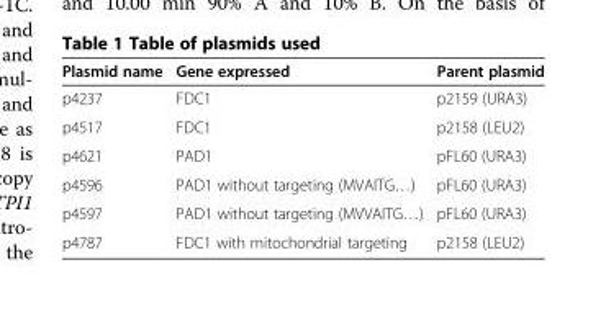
<table><thead><tr><td>Plasmid name</td><td>Gene expressed</td><td>Parent plasmid</td></tr></thead><tbody><tr><td>p4237</td><td>FDC1</td><td>p2159 (URA3)</td></tr><tr><td>p4517</td><td>FDC1</td><td>p2158 (LEU2)</td></tr><tr><td>p4621</td><td>PAD1</td><td>pFL60 (URA3)</td></tr><tr><td>p4596</td><td>PAD1 without targeting (MVAITG…)</td><td>pFL60 (URA3)</td></tr><tr><td>p4597</td><td>PAD1 without targeting (MVVAITG…)</td><td>pFL60 (URA3)</td></tr><tr><td>p4787</td><td>FDC1 with mitochondrial targeting</td><td>p2158 (LEU2)</td></tr></tbody></table>